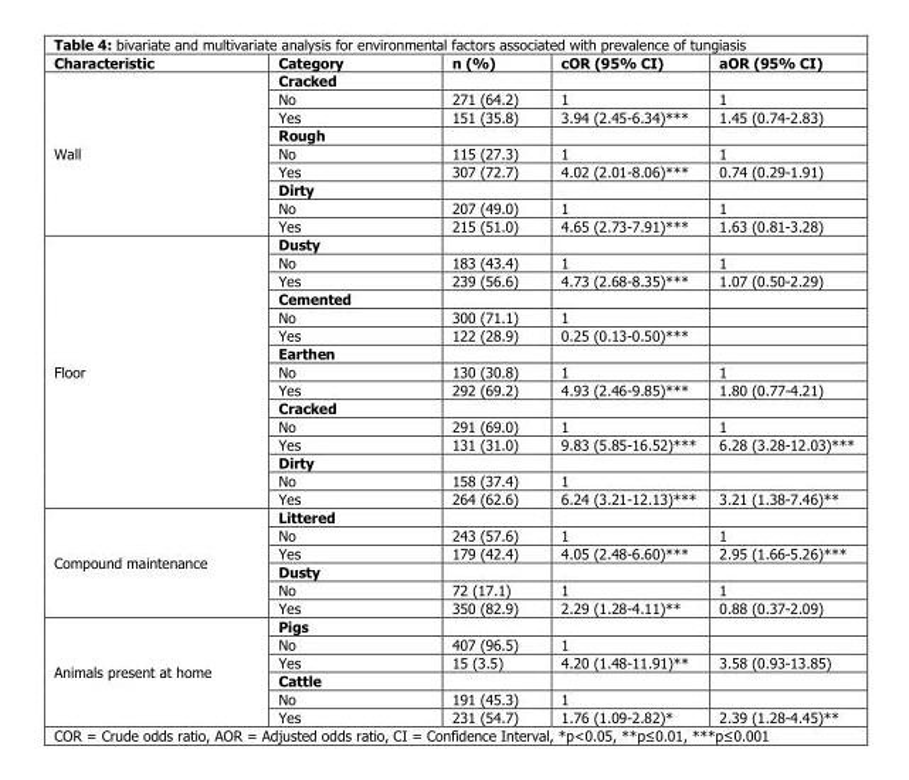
<table><thead><tr><td>Characteristic</td><td>Category</td><td>n (%)</td><td>cOR (95% CI)</td><td>aOR (95% CI)</td></tr></thead><tbody><tr><td rowspan="9">Wall</td><td>Cracked</td><td></td><td></td><td></td></tr><tr><td>No</td><td>271 (64.2)</td><td>1</td><td>1</td></tr><tr><td>Yes</td><td>151 (35.8)</td><td>3.94 (2.45-6.34)***</td><td>1.45 (0.74-2.83)</td></tr><tr><td>Rough</td><td></td><td></td><td></td></tr><tr><td>No</td><td>115 (27.3)</td><td>1</td><td>1</td></tr><tr><td>Yes</td><td>307 (72.7)</td><td>4.02 (2.01-8.06)***</td><td>0.74 (0.29-1.91)</td></tr><tr><td>Dirty</td><td></td><td></td><td></td></tr><tr><td>No</td><td>207 (49.0)</td><td>1</td><td>1</td></tr><tr><td>Yes</td><td>215 (51.0)</td><td>4.65 (2.73-7.91)***</td><td>1.63 (0.81-3.28)</td></tr><tr><td rowspan="15">Floor</td><td>Dusty</td><td></td><td></td><td></td></tr><tr><td>No</td><td>183 (43.4)</td><td>1</td><td>1</td></tr><tr><td>Yes</td><td>239 (56.6)</td><td>4.73 (2.68-8.35)***</td><td>1.07 (0.50-2.29)</td></tr><tr><td>Cemented</td><td></td><td></td><td></td></tr><tr><td>No</td><td>300 (71.1)</td><td>1</td><td></td></tr><tr><td>Yes</td><td>122 (28.9)</td><td>0.25 (0.13-0.50)***</td><td></td></tr><tr><td>Earthen</td><td></td><td></td><td></td></tr><tr><td>No</td><td>130 (30.8)</td><td>1</td><td>1</td></tr><tr><td>Yes</td><td>292 (69.2)</td><td>4.93 (2.46-9.85)***</td><td>1.80 (0.77-4.21)</td></tr><tr><td>Cracked</td><td></td><td></td><td></td></tr><tr><td>No</td><td>291 (69.0)</td><td>1</td><td>1</td></tr><tr><td>Yes</td><td>131 (31.0)</td><td>9.83 (5.85-16.52)***</td><td>6.28 (3.28-12.03)***</td></tr><tr><td>Dirty</td><td></td><td></td><td></td></tr><tr><td>No</td><td>158 (37.4)</td><td>1</td><td></td></tr><tr><td>Yes</td><td>264 (62.6)</td><td>6.24 (3.21-12.13)***</td><td>3.21 (1.38-7.46)**</td></tr><tr><td rowspan="6">Compound maintenance</td><td>Littered</td><td></td><td></td><td></td></tr><tr><td>No</td><td>243 (57.6)</td><td>1</td><td>1</td></tr><tr><td>Yes</td><td>179 (42.4)</td><td>4.05 (2.48-6.60)***</td><td>2.95 (1.66-5.26)***</td></tr><tr><td>Dusty</td><td></td><td></td><td></td></tr><tr><td>No</td><td>72 (17.1)</td><td>1</td><td>1</td></tr><tr><td>Yes</td><td>350 (82.9)</td><td>2.29 (1.28-4.11)**</td><td>0.88 (0.37-2.09)</td></tr><tr><td rowspan="6">Animals present at home</td><td>Pigs</td><td></td><td></td><td></td></tr><tr><td>No</td><td>407 (96.5)</td><td>1</td><td></td></tr><tr><td>Yes</td><td>15 (3.5)</td><td>4.20 (1.48-11.91)**</td><td>3.58 (0.93-13.85)</td></tr><tr><td>Cattle</td><td></td><td></td><td></td></tr><tr><td>No</td><td>191 (45.3)</td><td>1</td><td></td></tr><tr><td>Yes</td><td>231 (54.7)</td><td>1.76 (1.09-2.82)*</td><td>2.39 (1.28-4.45)**</td></tr></tbody></table>